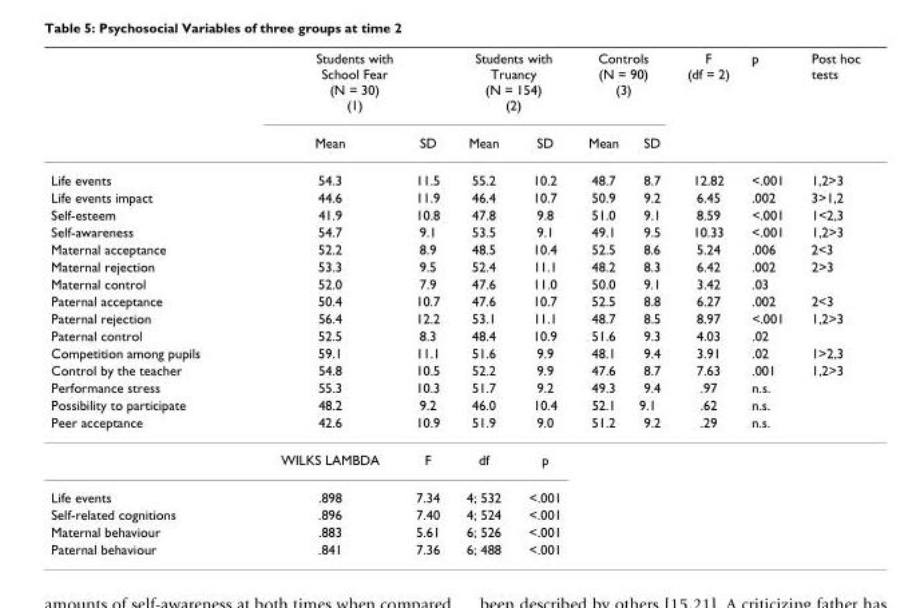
<table><thead><tr><td rowspan="2"></td><td colspan="2">Students with School Fear (N = 30) (1)</td><td colspan="2">Students with Truancy (N = 154) (2)</td><td colspan="2">Controls (N = 90) (3)</td><td rowspan="2">F (df = 2)</td><td rowspan="2">p</td><td rowspan="2">Post hoc tests</td></tr><tr><td>Mean</td><td>SD</td><td>Mean</td><td>SD</td><td>Mean</td><td>SD</td></tr></thead><tbody><tr><td>Life events</td><td>54.3</td><td>11.5</td><td>55.2</td><td>10.2</td><td>48.7</td><td>8.7</td><td>12.82</td><td>&lt;.001</td><td>1,2&gt;3</td></tr><tr><td>Life events impact</td><td>44.6</td><td>11.9</td><td>46.4</td><td>10.7</td><td>50.9</td><td>9.2</td><td>6.45</td><td>.002</td><td>3&gt;1,2</td></tr><tr><td>Self-esteem</td><td>41.9</td><td>10.8</td><td>47.8</td><td>9.8</td><td>51.0</td><td>9.1</td><td>8.59</td><td>&lt;.001</td><td>1&lt;2,3</td></tr><tr><td>Self-awareness</td><td>54.7</td><td>9.1</td><td>53.5</td><td>9.1</td><td>49.1</td><td>9.5</td><td>10.33</td><td>&lt;.001</td><td>1,2&gt;3</td></tr><tr><td>Maternal acceptance</td><td>52.2</td><td>8.9</td><td>48.5</td><td>10.4</td><td>52.5</td><td>8.6</td><td>5.24</td><td>.006</td><td>2&lt;3</td></tr><tr><td>Maternal rejection</td><td>53.3</td><td>9.5</td><td>52.4</td><td>11.1</td><td>48.2</td><td>8.3</td><td>6.42</td><td>.002</td><td>2&gt;3</td></tr><tr><td>Maternal control</td><td>52.0</td><td>7.9</td><td>47.6</td><td>11.0</td><td>50.0</td><td>9.1</td><td>3.42</td><td>.03</td><td></td></tr><tr><td>Paternal acceptance</td><td>50.4</td><td>10.7</td><td>47.6</td><td>10.7</td><td>52.5</td><td>8.8</td><td>6.27</td><td>.002</td><td>2&lt;3</td></tr><tr><td>Paternal rejection</td><td>56.4</td><td>12.2</td><td>53.1</td><td>11.1</td><td>48.7</td><td>8.5</td><td>8.97</td><td>&lt;.001</td><td>1,2&gt;3</td></tr><tr><td>Paternal control</td><td>52.5</td><td>8.3</td><td>48.4</td><td>10.9</td><td>51.6</td><td>9.3</td><td>4.03</td><td>.02</td><td></td></tr><tr><td>Competition among pupils</td><td>59.1</td><td>11.1</td><td>51.6</td><td>9.9</td><td>48.1</td><td>9.4</td><td>3.91</td><td>.02</td><td>1&gt;2,3</td></tr><tr><td>Control by the teacher</td><td>54.8</td><td>10.5</td><td>52.2</td><td>9.9</td><td>47.6</td><td>8.7</td><td>7.63</td><td>.001</td><td>1,2&gt;3</td></tr><tr><td>Performance stress</td><td>55.3</td><td>10.3</td><td>51.7</td><td>9.2</td><td>49.3</td><td>9.4</td><td>.97</td><td>n.s.</td><td></td></tr><tr><td>Possibility to participate</td><td>48.2</td><td>9.2</td><td>46.0</td><td>10.4</td><td>52.1</td><td>9.1</td><td>.62</td><td>n.s.</td><td></td></tr><tr><td rowspan="2">Peer acceptance</td><td>42.6</td><td>10.9</td><td>51.9</td><td>9.0</td><td>51.2</td><td>9.2</td><td>.29</td><td>n.s.</td><td></td></tr><tr><td>WILKS LAMBDA</td><td>F</td><td>df</td><td>p</td><td></td><td></td><td></td><td></td><td></td></tr><tr><td>Life events</td><td>.898</td><td>7.34</td><td>4; 532</td><td>&lt;.001</td><td></td><td></td><td></td><td></td><td></td></tr><tr><td>Self-related cognitions</td><td>.896</td><td>7.40</td><td>4; 524</td><td>&lt;.001</td><td></td><td></td><td></td><td></td><td></td></tr><tr><td>Maternal behaviour</td><td>.883</td><td>5.61</td><td>6; 526</td><td>&lt;.001</td><td></td><td></td><td></td><td></td><td></td></tr><tr><td>Paternal behaviour</td><td>.841</td><td>7.36</td><td>6; 488</td><td>&lt;.001</td><td></td><td></td><td></td><td></td><td></td></tr></tbody></table>